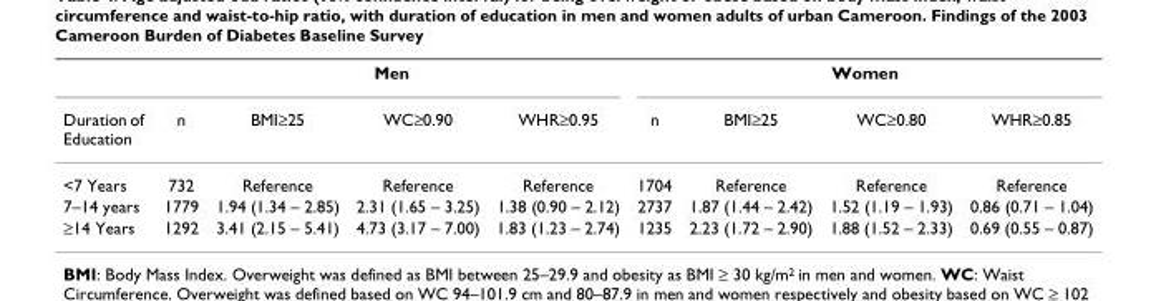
<table><thead><tr><td rowspan="2">Duration of Education</td><td colspan="4">Men</td><td colspan="4">Women</td></tr><tr><td>n</td><td>BMI≥25</td><td>WC≥0.90</td><td>WHR≥0.95</td><td>n</td><td>BMI≥25</td><td>WC≥0.80</td><td>WHR≥0.85</td></tr></thead><tbody><tr><td>&lt;7 Years</td><td>732</td><td>Reference</td><td>Reference</td><td>Reference</td><td>1704</td><td>Reference</td><td>Reference</td><td>Reference</td></tr><tr><td>7–14 years</td><td>1779</td><td>1.94 (1.34 – 2.85)</td><td>2.31 (1.65 – 3.25)</td><td>1.38 (0.90 – 2.12)</td><td>2737</td><td>1.87 (1.44 – 2.42)</td><td>1.52 (1.19 – 1.93)</td><td>0.86 (0.71 – 1.04)</td></tr><tr><td>≥14 Years</td><td>1292</td><td>3.41 (2.15 – 5.41)</td><td>4.73 (3.17 – 7.00)</td><td>1.83 (1.23 – 2.74)</td><td>1235</td><td>2.23 (1.72 – 2.90)</td><td>1.88 (1.52 – 2.33)</td><td>0.69 (0.55 – 0.87)</td></tr></tbody></table>